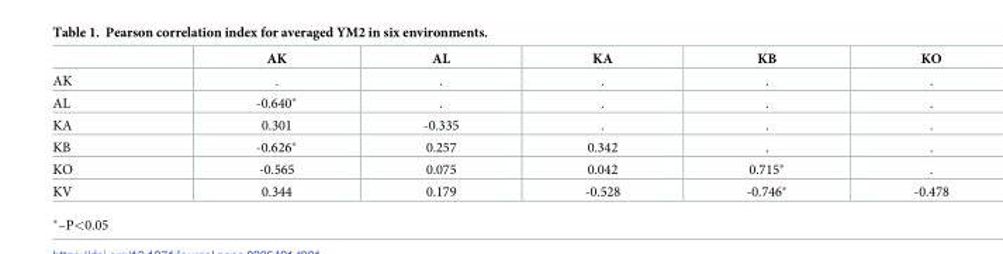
<table><thead><tr><td></td><td>AK</td><td>AL</td><td>KA</td><td>KB</td><td>KO</td></tr></thead><tbody><tr><td>AK</td><td>.</td><td>.</td><td>.</td><td>.</td><td>.</td></tr><tr><td>AL</td><td>-0.640*</td><td>.</td><td>.</td><td>.</td><td>.</td></tr><tr><td>KA</td><td>0.301</td><td>-0.335</td><td>.</td><td>.</td><td>.</td></tr><tr><td>KB</td><td>-0.626*</td><td>0.257</td><td>0.342</td><td>.</td><td>.</td></tr><tr><td>KO</td><td>-0.565</td><td>0.075</td><td>0.042</td><td>0.715*</td><td>.</td></tr><tr><td>KV</td><td>0.344</td><td>0.179</td><td>-0.528</td><td>-0.746*</td><td>-0.478</td></tr></tbody></table>